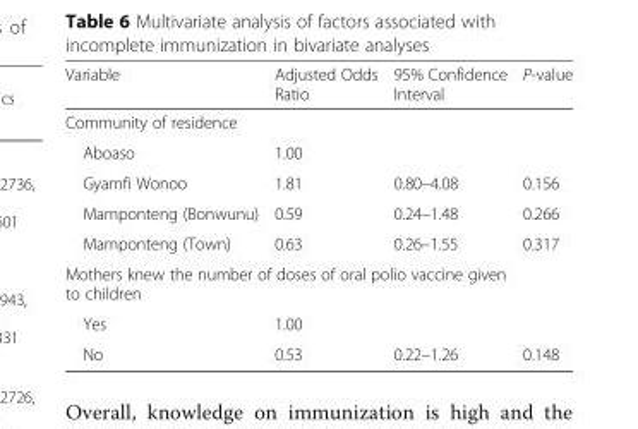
<table><thead><tr><td>Variable</td><td>Adjusted Odds Ratio</td><td>95% Confidence Interval</td><td>P-value</td></tr></thead><tbody><tr><td colspan="4">Community of residence</td></tr><tr><td>Aboaso</td><td>1.00</td><td></td><td></td></tr><tr><td>Gyamfi Wonoo</td><td>1.81</td><td>0.80–4.08</td><td>0.156</td></tr><tr><td>Mamponteng (Bonwunu)</td><td>0.59</td><td>0.24–1.48</td><td>0.266</td></tr><tr><td>Mamponteng (Town)</td><td>0.63</td><td>0.26–1.55</td><td>0.317</td></tr><tr><td colspan="4">Mothers knew the number of doses of oral polio vaccine given to children</td></tr><tr><td>Yes</td><td>1.00</td><td></td><td></td></tr><tr><td>No</td><td>0.53</td><td>0.22–1.26</td><td>0.148</td></tr></tbody></table>